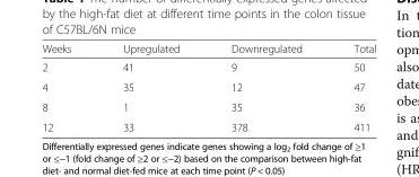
<table><thead><tr><td>Weeks</td><td>Upregulated</td><td>Downregulated</td><td>Total</td></tr></thead><tbody><tr><td>2</td><td>41</td><td>9</td><td>50</td></tr><tr><td>4</td><td>35</td><td>12</td><td>47</td></tr><tr><td>8</td><td>1</td><td>35</td><td>36</td></tr><tr><td>12</td><td>33</td><td>378</td><td>411</td></tr></tbody></table>